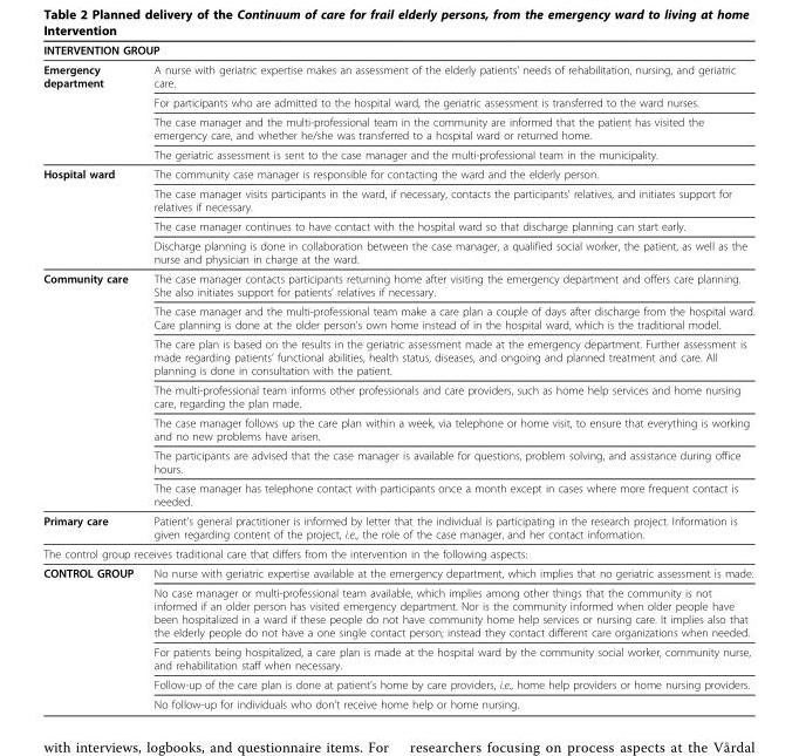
<table><thead><tr><td colspan="2">INTERVENTION GROUP</td></tr><tr><td>Emergency department</td><td>A nurse with geriatric expertise makes an assessment of the elderly patients’ needs of rehabilitation, nursing, and geriatric care.</td></tr></thead><tbody><tr><td></td><td>For participants who are admitted to the hospital ward, the geriatric assessment is transferred to the ward nurses.</td></tr><tr><td></td><td>The case manager and the multi-professional team in the community are informed that the patient has visited the emergency care, and whether he/she was transferred to a hospital ward or returned home.</td></tr><tr><td></td><td>The geriatric assessment is sent to the case manager and the multi-professional team in the municipality.</td></tr><tr><td rowspan="4">Hospital ward</td><td>The community case manager is responsible for contacting the ward and the elderly person.</td></tr><tr><td>The case manager visits participants in the ward, if necessary, contacts the participants’ relatives, and initiates support for relatives if necessary.</td></tr><tr><td>The case manager continues to have contact with the hospital ward so that discharge planning can start early.</td></tr><tr><td>Discharge planning is done in collaboration between the case manager, a qualified social worker, the patient, as well as the nurse and physician in charge at the ward.</td></tr><tr><td rowspan="7">Community care</td><td>The case manager contacts participants returning home after visiting the emergency department and offers care planning. She also initiates support for patients’ relatives if necessary.</td></tr><tr><td>The case manager and the multi-professional team make a care plan a couple of days after discharge from the hospital ward. Care planning is done at the older person’s own home instead of in the hospital ward, which is the traditional model.</td></tr><tr><td>The care plan is based on the results in the geriatric assessment made at the emergency department. Further assessment is made regarding patients’ functional abilities, health status, diseases, and ongoing and planned treatment and care. All planning is done in consultation with the patient.</td></tr><tr><td>The multi-professional team informs other professionals and care providers, such as home help services and home nursing care, regarding the plan made.</td></tr><tr><td>The case manager follows up the care plan within a week, via telephone or home visit, to ensure that everything is working and no new problems have arisen.</td></tr><tr><td>The participants are advised that the case manager is available for questions, problem solving, and assistance during office hours.</td></tr><tr><td>The case manager has telephone contact with participants once a month except in cases where more frequent contact is needed.</td></tr><tr><td>Primary care</td><td>Patient’s general practitioner is informed by letter that the individual is participating in the research project. Information is given regarding content of the project, i.e., the role of the case manager, and her contact information.</td></tr><tr><td colspan="2">The control group receives traditional care that differs from the intervention in the following aspects:</td></tr><tr><td rowspan="5">CONTROL GROUP</td><td>No nurse with geriatric expertise available at the emergency department, which implies that no geriatric assessment is made.</td></tr><tr><td>No case manager or multi-professional team available, which implies among other things that the community is not informed if an older person has visited emergency department. Nor is the community informed when older people have been hospitalized in a ward if these people do not have community home help services or nursing care. It implies also that the elderly people do not have a one single contact person; instead they contact different care organizations when needed.</td></tr><tr><td>For patients being hospitalized, a care plan is made at the hospital ward by the community social worker, community nurse, and rehabilitation staff when necessary.</td></tr><tr><td>Follow-up of the care plan is done at patient’s home by care providers, i.e., home help providers or home nursing providers.</td></tr><tr><td>No follow-up for individuals who don’t receive home help or home nursing.</td></tr></tbody></table>